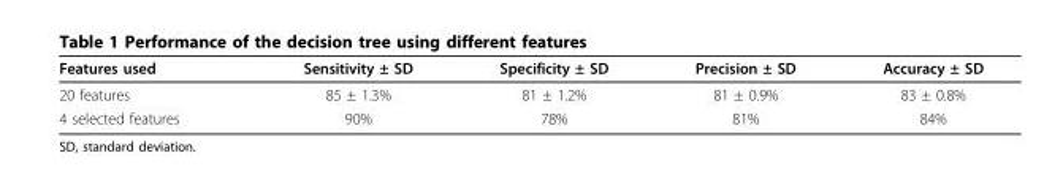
<table><thead><tr><td>Features used</td><td>Sensitivity ± SD</td><td>Specificity ± SD</td><td>Precision ± SD</td><td>Accuracy ± SD</td></tr></thead><tbody><tr><td>20 features</td><td>85 ± 1.3%</td><td>81 ± 1.2%</td><td>81 ± 0.9%</td><td>83 ± 0.8%</td></tr><tr><td>4 selected features</td><td>90%</td><td>78%</td><td>81%</td><td>84%</td></tr></tbody></table>